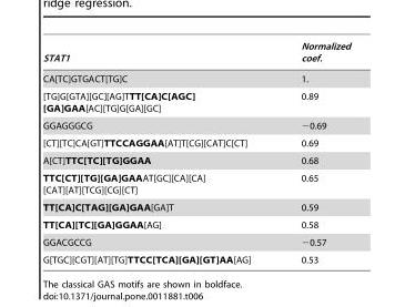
<table><thead><tr><td>STAT1</td><td>Normalized coef.</td></tr></thead><tbody><tr><td>CA[TC]GTGACT[TG]C</td><td>1.</td></tr><tr><td>[TG]G[GTA][GC][AG]TTT[CA]C[AGC] [GA]GAA[AC][TG]G[GA][GC]</td><td>0.89</td></tr><tr><td>GGAGGGCG</td><td>−0.69</td></tr><tr><td>[CT][TC]CA[GT]TTCCAGGAA[AT]T[CG][CAT]C[CT]</td><td>0.69</td></tr><tr><td>A[CT]TTC[TC][TG]GGAA</td><td>0.68</td></tr><tr><td>TTC[CT][TG][GA]GAAAT[GC][CA][CA] [CAT][AT][TCG][CG][CT]</td><td>0.65</td></tr><tr><td>TT[CA]C[TAG][GA]GAA[GA]T</td><td>0.59</td></tr><tr><td>TT[CA][TC][GA]GGAA[AG]</td><td>0.58</td></tr><tr><td>GGACGCCG</td><td>−0.57</td></tr><tr><td>G[TGC][CGT][AT][TG]TTCC[TCA][GA][GT]AA[AG]</td><td>0.53</td></tr></tbody></table>